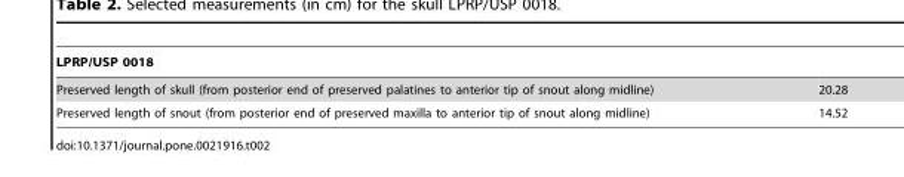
<table><thead><tr><td>LPRP/USP 0018</td><td></td></tr></thead><tbody><tr><td>Preserved length of skull (from posterior end of preserved palatines to anterior tip of snout along midline)</td><td>20.28</td></tr><tr><td>Preserved length of snout (from posterior end of preserved maxilla to anterior tip of snout along midline)</td><td>14.52</td></tr></tbody></table>